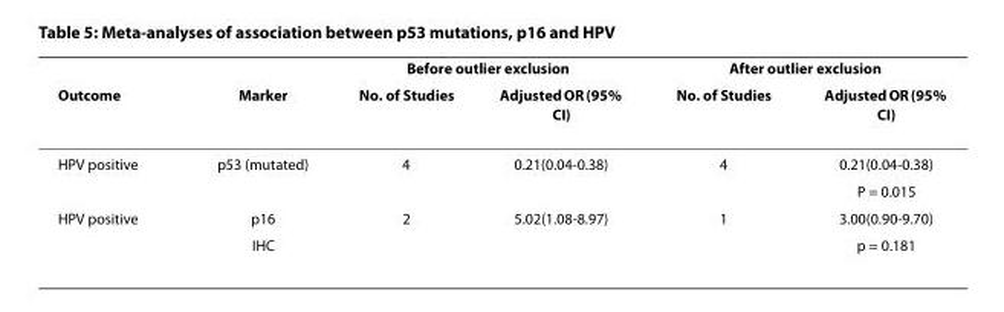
<table><thead><tr><td rowspan="2">Outcome</td><td rowspan="2">Marker</td><td colspan="2">Before outlier exclusion</td><td colspan="2">After outlier exclusion</td></tr><tr><td>No. of Studies</td><td>Adjusted OR (95% CI)</td><td>No. of Studies</td><td>Adjusted OR (95% CI)</td></tr></thead><tbody><tr><td rowspan="2">HPV positive</td><td>p53 (mutated)</td><td>4</td><td>0.21(0.04-0.38)</td><td>4</td><td>0.21(0.04-0.38)</td></tr><tr><td></td><td></td><td></td><td></td><td>P = 0.015</td></tr><tr><td rowspan="2">HPV positive</td><td>p16</td><td>2</td><td>5.02(1.08-8.97)</td><td>1</td><td>3.00(0.90-9.70)</td></tr><tr><td>IHC</td><td></td><td></td><td></td><td>p = 0.181</td></tr></tbody></table>